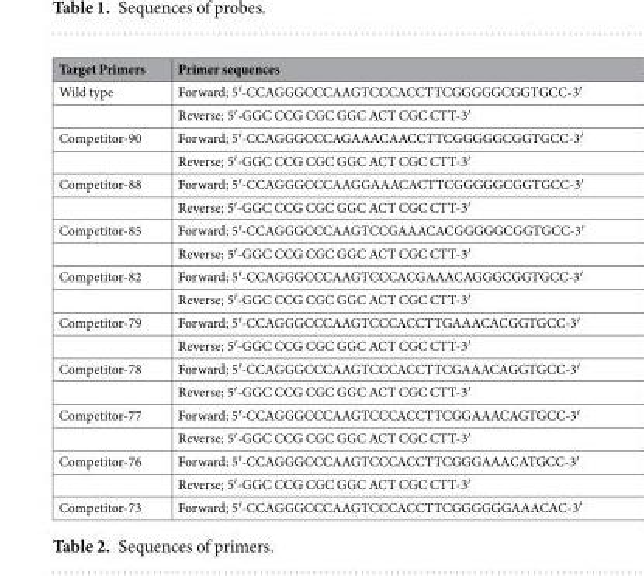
<table><thead><tr><td>Target Primers</td><td>Primer sequences</td></tr></thead><tbody><tr><td rowspan="2">Wild type</td><td>Forward; 5′-CCAGGGCCCAAGTCCCACCTTCGGGGGCGGTGCC-3′</td></tr><tr><td>Reverse; 5′-GGC CCG CGC GGC ACT CGC CTT-3′</td></tr><tr><td rowspan="2">Competitor-90</td><td>Forward; 5′-CCAGGGCCCAGAAACAACCTTCGGGGGCGGTGCC-3′</td></tr><tr><td>Reverse; 5′-GGC CCG CGC GGC ACT CGC CTT-3′</td></tr><tr><td rowspan="2">Competitor-88</td><td>Forward; 5′-CCAGGGCCCAAGGAAACACTTCGGGGGCGGTGCC-3′</td></tr><tr><td>Reverse; 5′-GGC CCG CGC GGC ACT CGC CTT-3′</td></tr><tr><td rowspan="2">Competitor-85</td><td>Forward; 5′-CCAGGGCCCAAGTCCGAAACACGGGGGCGGTGCC-3′</td></tr><tr><td>Reverse; 5′-GGC CCG CGC GGC ACT CGC CTT-3′</td></tr><tr><td rowspan="2">Competitor-82</td><td>Forward; 5′-CCAGGGCCCAAGTCCCACGAAACAGGGCGGTGCC-3′</td></tr><tr><td>Reverse; 5′-GGC CCG CGC GGC ACT CGC CTT-3′</td></tr><tr><td rowspan="2">Competitor-79</td><td>Forward; 5′-CCAGGGCCCAAGTCCCACCTTGAAACACGGTGCC-3′</td></tr><tr><td>Reverse; 5′-GGC CCG CGC GGC ACT CGC CTT-3′</td></tr><tr><td rowspan="2">Competitor-78</td><td>Forward; 5′-CCAGGGCCCAAGTCCCACCTTCGAAACAGGTGCC-3′</td></tr><tr><td>Reverse; 5′-GGC CCG CGC GGC ACT CGC CTT-3′</td></tr><tr><td rowspan="2">Competitor-77</td><td>Forward; 5′-CCAGGGCCCAAGTCCCACCTTCGGAAACAGTGCC-3′</td></tr><tr><td>Reverse; 5′-GGC CCG CGC GGC ACT CGC CTT-3′</td></tr><tr><td rowspan="2">Competitor-76</td><td>Forward; 5′-CCAGGGCCCAAGTCCCACCTTCGGGAAACATGCC-3′</td></tr><tr><td>Reverse; 5′-GGC CCG CGC GGC ACT CGC CTT-3′</td></tr><tr><td>Competitor-73</td><td>Forward; 5′-CCAGGGCCCAAGTCCCACCTTCGGGGGGAAACAC-3′</td></tr></tbody></table>